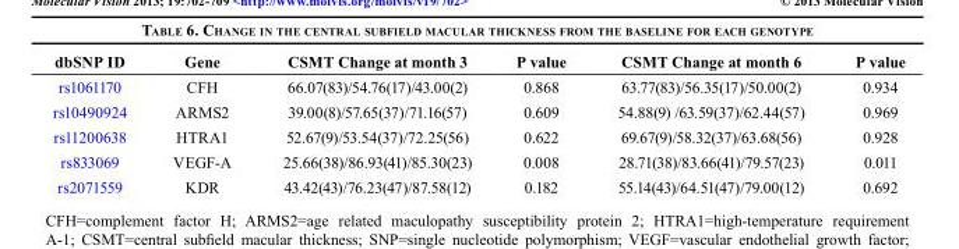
<table><thead><tr><td>dbSNP ID</td><td>Gene</td><td>CSMT Change at month 3</td><td>P value</td><td>CSMT Change at month 6</td><td>P value</td></tr></thead><tbody><tr><td>rs1061170</td><td>CFH</td><td>66.07(83)/54.76(17)/43.00(2)</td><td>0.868</td><td>63.77(83)/56.35(17)/50.00(2)</td><td>0.934</td></tr><tr><td>rs10490924</td><td>ARMS2</td><td>39.00(8)/57.65(37)/71.16(57)</td><td>0.609</td><td>54.88(9) /63.59(37)/62.44(57)</td><td>0.969</td></tr><tr><td>rs11200638</td><td>HTRA1</td><td>52.67(9)/53.54(37)/72.25(56)</td><td>0.622</td><td>69.67(9)/58.32(37)/63.68(56)</td><td>0.928</td></tr><tr><td>rs833069</td><td>VEGF-A</td><td>25.66(38)/86.93(41)/85.30(23)</td><td>0.008</td><td>28.71(38)/83.66(41)/79.57(23)</td><td>0.011</td></tr><tr><td>rs2071559</td><td>KDR</td><td>43.42(43)/76.23(47)/87.58(12)</td><td>0.182</td><td>55.14(43)/64.51(47)/79.00(12)</td><td>0.692</td></tr></tbody></table>